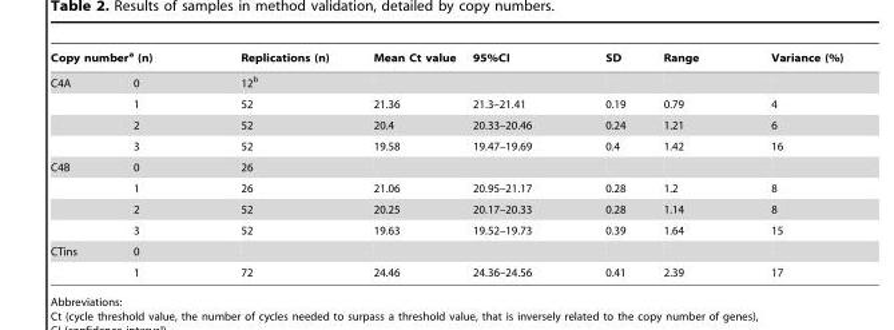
<table><thead><tr><td colspan="2">Copy number<sup>a</sup> (n)</td><td rowspan="2">Replications (n) 12<sup>b</sup></td><td rowspan="2">Mean Ct value</td><td rowspan="2">95%CI</td><td rowspan="2">SD</td><td rowspan="2">Range</td><td rowspan="2">Variance (%)</td></tr><tr><td>C4A</td><td>0</td></tr></thead><tbody><tr><td></td><td>1</td><td>52</td><td>21.36</td><td>21.3–21.41</td><td>0.19</td><td>0.79</td><td>4</td></tr><tr><td></td><td>2</td><td>52</td><td>20.4</td><td>20.33–20.46</td><td>0.24</td><td>1.21</td><td>6</td></tr><tr><td></td><td>3</td><td>52</td><td>19.58</td><td>19.47–19.69</td><td>0.4</td><td>1.42</td><td>16</td></tr><tr><td rowspan="4">C4B</td><td>0</td><td>26</td><td></td><td></td><td></td><td></td><td></td></tr><tr><td>1</td><td>26</td><td>21.06</td><td>20.95–21.17</td><td>0.28</td><td>1.2</td><td>8</td></tr><tr><td>2</td><td>52</td><td>20.25</td><td>20.17–20.33</td><td>0.28</td><td>1.14</td><td>8</td></tr><tr><td>3</td><td>52</td><td>19.63</td><td>19.52–19.73</td><td>0.39</td><td>1.64</td><td>15</td></tr><tr><td rowspan="2">CTins</td><td>0</td><td></td><td></td><td></td><td></td><td></td><td></td></tr><tr><td>1</td><td>72</td><td>24.46</td><td>24.36–24.56</td><td>0.41</td><td>2.39</td><td>17</td></tr></tbody></table>